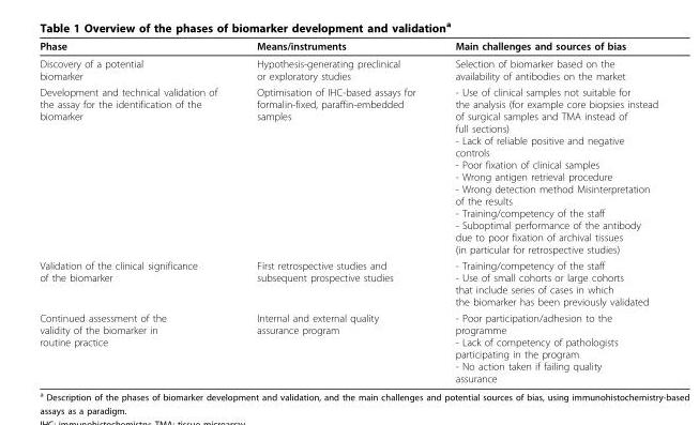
<table><thead><tr><td>Phase</td><td>Means/instruments</td><td>Main challenges and sources of bias</td></tr></thead><tbody><tr><td>Discovery of a potential biomarker</td><td>Hypothesis-generating preclinical or exploratory studies</td><td>Selection of biomarker based on the availability of antibodies on the market</td></tr><tr><td>Development and technical validation of the assay for the identification of the biomarker</td><td>Optimisation of IHC-based assays for formalin-fixed, paraffin-embedded samples</td><td>- Use of clinical samples not suitable for the analysis (for example core biopsies instead of surgical samples and TMA instead of full sections) - Lack of reliable positive and negative controls - Poor fixation of clinical samples - Wrong antigen retrieval procedure - Wrong detection method Misinterpretation of the results - Training/competency of the staff - Suboptimal performance of the antibody due to poor fixation of archival tissues (in particular for retrospective studies)</td></tr><tr><td>Validation of the clinical significance of the biomarker</td><td>First retrospective studies and subsequent prospective studies</td><td>- Training/competency of the staff - Use of small cohorts or large cohorts that include series of cases in which the biomarker has been previously validated</td></tr><tr><td>Continued assessment of the validity of the biomarker in routine practice</td><td>Internal and external quality assurance program</td><td>- Poor participation/adhesion to the programme - Lack of competency of pathologists participating in the program - No action taken if failing quality assurance</td></tr></tbody></table>